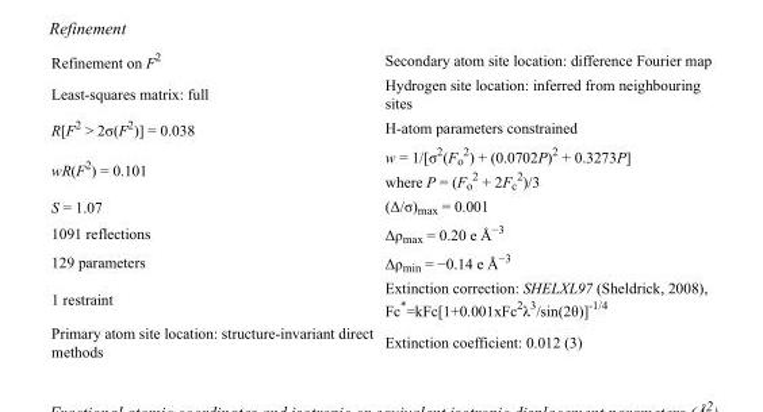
<table><tbody><tr><td>Refinement on F<sup>2</sup></td><td>Secondary atom site location: difference Fourier map</td></tr><tr><td>Least-squares matrix: full</td><td>Hydrogen site location: inferred from neighbouring sites</td></tr><tr><td>R[F<sup>2</sup> &gt; 2σ(F<sup>2</sup>)] = 0.038</td><td>H-atom parameters constrained</td></tr><tr><td>wR(F<sup>2</sup>) = 0.101</td><td>w = 1/[σ<sup>2</sup>(F<sub>o</sub> <sup>2</sup>) + (0.0702P)<sup>2</sup> + 0.3273P] where P = (F<sub>o</sub> <sup>2</sup> + 2F<sub>c</sub> <sup>2</sup>)/3</td></tr><tr><td>S = 1.07</td><td>(Δ/σ)<sub>max</sub> = 0.001</td></tr><tr><td>1091 reflections</td><td>Δρ<sub>max</sub> = 0.20 e Å<sup>−3</sup></td></tr><tr><td>129 parameters</td><td>Δρ<sub>min</sub> = −0.14 e Å<sup>−3</sup></td></tr><tr><td>1 restraint</td><td>Extinction correction: SHELXL97 (Sheldrick, 2008), Fc*=kFc[1+0.001xFc<sup>2</sup>λ<sup>3</sup>/sin(2θ)]<sup>-1/4</sup></td></tr><tr><td>Primary atom site location: structure-invariant direct methods</td><td>Extinction coefficient: 0.012 (3)</td></tr></tbody></table>